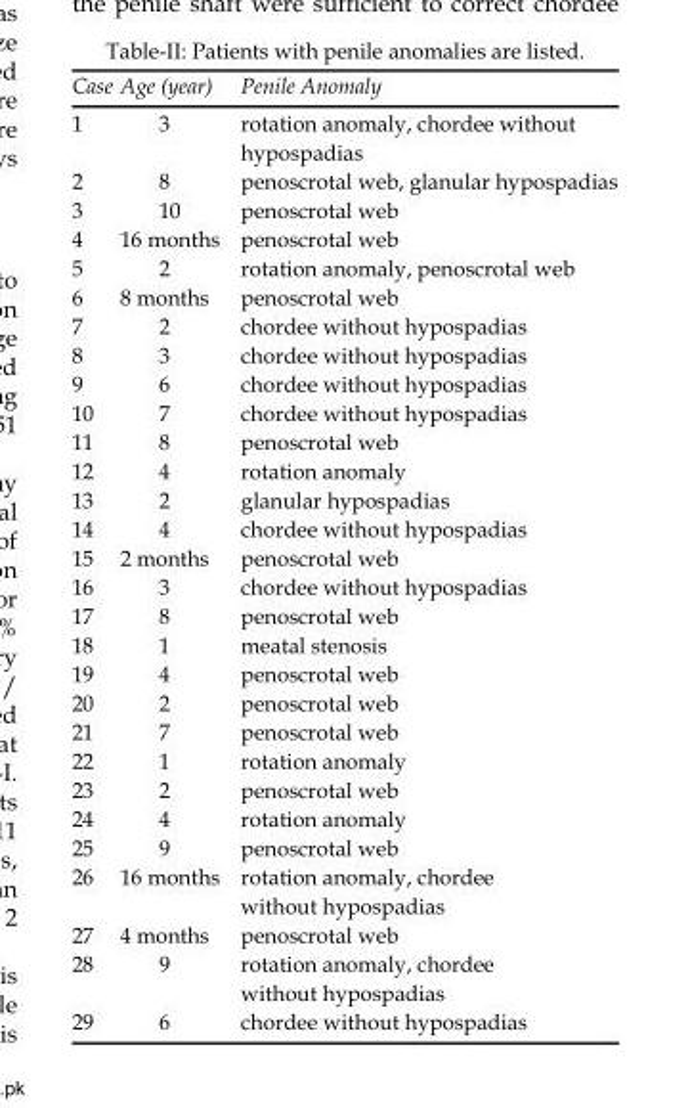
<table><thead><tr><td>Case</td><td>Age (year)</td><td>Penile Anomaly</td></tr></thead><tbody><tr><td>1</td><td>3</td><td>rotation anomaly, chordee without hypospadias</td></tr><tr><td>2</td><td>8</td><td>penoscrotal web, glanular hypospadias</td></tr><tr><td>3</td><td>10</td><td>penoscrotal web</td></tr><tr><td>4</td><td>16 months</td><td>penoscrotal web</td></tr><tr><td>5</td><td>2</td><td>rotation anomaly, penoscrotal web</td></tr><tr><td>6</td><td>8 months</td><td>penoscrotal web</td></tr><tr><td>7</td><td>2</td><td>chordee without hypospadias</td></tr><tr><td>8</td><td>3</td><td>chordee without hypospadias</td></tr><tr><td>9</td><td>6</td><td>chordee without hypospadias</td></tr><tr><td>10</td><td>7</td><td>chordee without hypospadias</td></tr><tr><td>11</td><td>8</td><td>penoscrotal web</td></tr><tr><td>12</td><td>4</td><td>rotation anomaly</td></tr><tr><td>13</td><td>2</td><td>glanular hypospadias</td></tr><tr><td>14</td><td>4</td><td>chordee without hypospadias</td></tr><tr><td>15</td><td>2 months</td><td>penoscrotal web</td></tr><tr><td>16</td><td>3</td><td>chordee without hypospadias</td></tr><tr><td>17</td><td>8</td><td>penoscrotal web</td></tr><tr><td>18</td><td>1</td><td>meatal stenosis</td></tr><tr><td>19</td><td>4</td><td>penoscrotal web</td></tr><tr><td>20</td><td>2</td><td>penoscrotal web</td></tr><tr><td>21</td><td>7</td><td>penoscrotal web</td></tr><tr><td>22</td><td>1</td><td>rotation anomaly</td></tr><tr><td>23</td><td>2</td><td>penoscrotal web</td></tr><tr><td>24</td><td>4</td><td>rotation anomaly</td></tr><tr><td>25</td><td>9</td><td>penoscrotal web</td></tr><tr><td>26</td><td>16 months</td><td>rotation anomaly, chordee without hypospadias</td></tr><tr><td>27</td><td>4 months</td><td>penoscrotal web</td></tr><tr><td>28</td><td>9</td><td>rotation anomaly, chordee without hypospadias</td></tr><tr><td>29</td><td>6</td><td>chordee without hypospadias</td></tr></tbody></table>